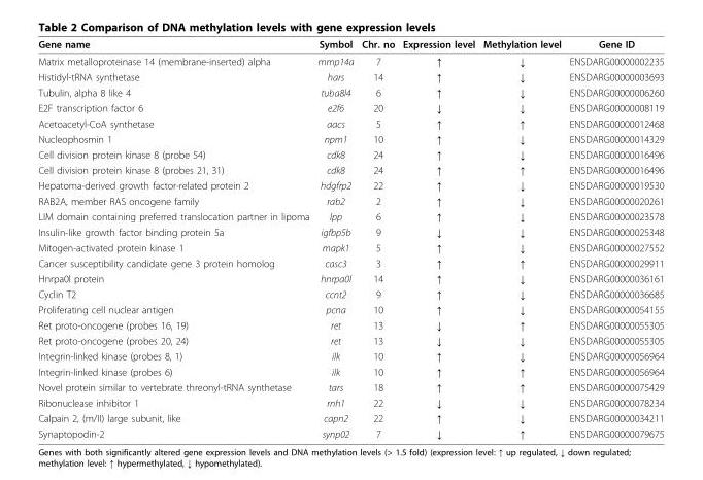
<table><thead><tr><td>Gene name</td><td>Symbol</td><td>Chr. no</td><td>Expression level</td><td>Methylation level</td><td>Gene ID</td></tr></thead><tbody><tr><td>Matrix metalloproteinase 14 (membrane-inserted) alpha</td><td>mmp14a</td><td>7</td><td>↑</td><td>↓</td><td>ENSDARG00000002235</td></tr><tr><td>Histidyl-tRNA synthetase</td><td>hars</td><td>14</td><td>↑</td><td>↓</td><td>ENSDARG00000003693</td></tr><tr><td>Tubulin, alpha 8 like 4</td><td>tuba8l4</td><td>6</td><td>↑</td><td>↓</td><td>ENSDARG00000006260</td></tr><tr><td>E2F transcription factor 6</td><td>e2f6</td><td>20</td><td>↓</td><td>↓</td><td>ENSDARG00000008119</td></tr><tr><td>Acetoacetyl-CoA synthetase</td><td>aacs</td><td>5</td><td>↑</td><td>↑</td><td>ENSDARG00000012468</td></tr><tr><td>Nucleophosmin 1</td><td>npm1</td><td>10</td><td>↑</td><td>↓</td><td>ENSDARG00000014329</td></tr><tr><td>Cell division protein kinase 8 (probe 54)</td><td>cdk8</td><td>24</td><td>↑</td><td>↓</td><td>ENSDARG00000016496</td></tr><tr><td>Cell division protein kinase 8 (probes 21, 31)</td><td>cdk8</td><td>24</td><td>↑</td><td>↑</td><td>ENSDARG00000016496</td></tr><tr><td>Hepatoma-derived growth factor-related protein 2</td><td>hdgfrp2</td><td>22</td><td>↑</td><td>↓</td><td>ENSDARG00000019530</td></tr><tr><td>RAB2A, member RAS oncogene family</td><td>rab2</td><td>2</td><td>↑</td><td>↓</td><td>ENSDARG00000020261</td></tr><tr><td>LIM domain containing preferred translocation partner in lipoma</td><td>lpp</td><td>6</td><td>↑</td><td>↓</td><td>ENSDARG00000023578</td></tr><tr><td>Insulin-like growth factor binding protein 5a</td><td>igfbp5b</td><td>9</td><td>↓</td><td>↓</td><td>ENSDARG00000025348</td></tr><tr><td>Mitogen-activated protein kinase 1</td><td>mapk1</td><td>5</td><td>↑</td><td>↓</td><td>ENSDARG00000027552</td></tr><tr><td>Cancer susceptibility candidate gene 3 protein homolog</td><td>casc3</td><td>3</td><td>↑</td><td>↑</td><td>ENSDARG00000029911</td></tr><tr><td>Hnrpa0l protein</td><td>hnrpa0l</td><td>14</td><td>↑</td><td>↓</td><td>ENSDARG00000036161</td></tr><tr><td>Cyclin T2</td><td>ccnt2</td><td>9</td><td>↑</td><td>↓</td><td>ENSDARG00000036685</td></tr><tr><td>Proliferating cell nuclear antigen</td><td>pcna</td><td>10</td><td>↑</td><td>↓</td><td>ENSDARG00000054155</td></tr><tr><td>Ret proto-oncogene (probes 16, 19)</td><td>ret</td><td>13</td><td>↓</td><td>↑</td><td>ENSDARG00000055305</td></tr><tr><td>Ret proto-oncogene (probes 20, 24)</td><td>ret</td><td>13</td><td>↓</td><td>↓</td><td>ENSDARG00000055305</td></tr><tr><td>Integrin-linked kinase (probes 8, 1)</td><td>ilk</td><td>10</td><td>↑</td><td>↓</td><td>ENSDARG00000056964</td></tr><tr><td>Integrin-linked kinase (probes 6)</td><td>ilk</td><td>10</td><td>↑</td><td>↑</td><td>ENSDARG00000056964</td></tr><tr><td>Novel protein similar to vertebrate threonyl-tRNA synthetase</td><td>tars</td><td>18</td><td>↑</td><td>↑</td><td>ENSDARG00000075429</td></tr><tr><td>Ribonuclease inhibitor 1</td><td>rnh1</td><td>22</td><td>↓</td><td>↓</td><td>ENSDARG00000078234</td></tr><tr><td>Calpain 2, (m/II) large subunit, like</td><td>capn2</td><td>22</td><td>↑</td><td>↓</td><td>ENSDARG00000034211</td></tr><tr><td>Synaptopodin-2</td><td>synp02</td><td>7</td><td>↓</td><td>↑</td><td>ENSDARG00000079675</td></tr></tbody></table>